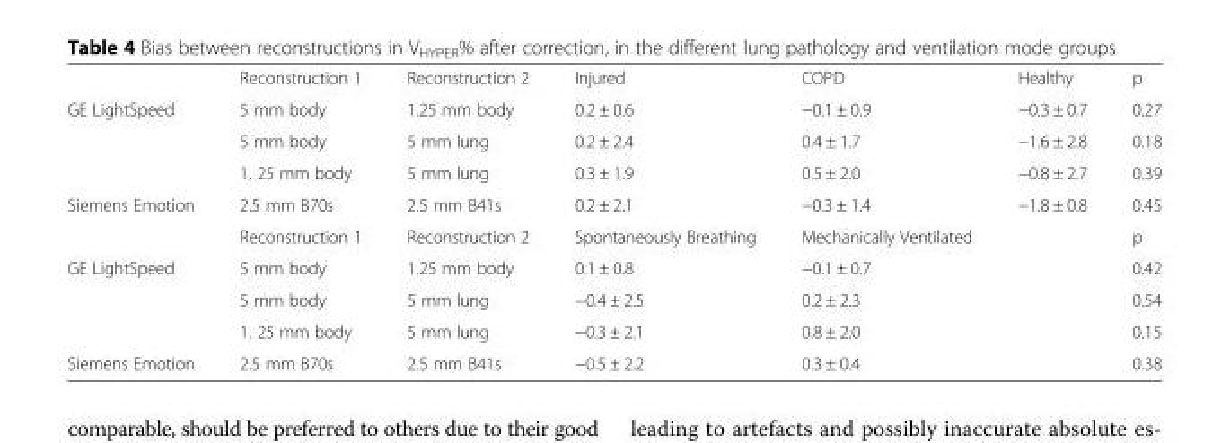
<table><thead><tr><td></td><td>Reconstruction 1</td><td>Reconstruction 2</td><td>Injured</td><td>COPD</td><td>Healthy</td><td>p</td></tr></thead><tbody><tr><td rowspan="3">GE LightSpeed</td><td>5 mm body</td><td>1.25 mm body</td><td>0.2 ± 0.6</td><td>−0.1 ± 0.9</td><td>−0.3 ± 0.7</td><td>0.27</td></tr><tr><td>5 mm body</td><td>5 mm lung</td><td>0.2 ± 2.4</td><td>0.4 ± 1.7</td><td>−1.6 ± 2.8</td><td>0.18</td></tr><tr><td>1. 25 mm body</td><td>5 mm lung</td><td>0.3 ± 1.9</td><td>0.5 ± 2.0</td><td>−0.8 ± 2.7</td><td>0.39</td></tr><tr><td rowspan="2">Siemens Emotion</td><td>2.5 mm B70s</td><td>2.5 mm B41s</td><td>0.2 ± 2.1</td><td>−0.3 ± 1.4</td><td>−1.8 ± 0.8</td><td>0.45</td></tr><tr><td>Reconstruction 1</td><td>Reconstruction 2</td><td>Spontaneously Breathing</td><td>Mechanically Ventilated</td><td></td><td>p</td></tr><tr><td rowspan="3">GE LightSpeed</td><td>5 mm body</td><td>1.25 mm body</td><td>0.1 ± 0.8</td><td>−0.1 ± 0.7</td><td rowspan="3"></td><td>0.42</td></tr><tr><td>5 mm body</td><td>5 mm lung</td><td>−0.4 ± 2.5</td><td>0.2 ± 2.3</td><td>0.54</td></tr><tr><td>1. 25 mm body</td><td>5 mm lung</td><td>−0.3 ± 2.1</td><td>0.8 ± 2.0</td><td>0.15</td></tr><tr><td>Siemens Emotion</td><td>2.5 mm B70s</td><td>2.5 mm B41s</td><td>−0.5 ± 2.2</td><td>0.3 ± 0.4</td><td></td><td>0.38</td></tr></tbody></table>